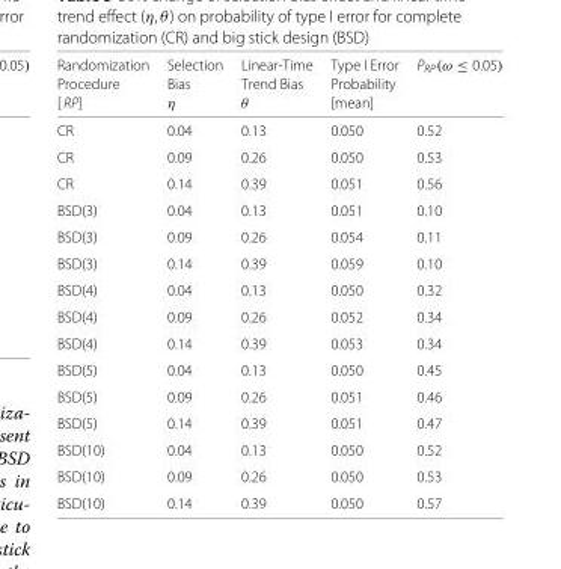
<table><thead><tr><td rowspan="3">Randomization Procedure [ RP]</td><td rowspan="3">Selection Bias η</td><td rowspan="3">Linear-Time Trend Bias θ</td><td rowspan="3">Type I Error Probability [mean]</td><td rowspan="3">P<sub>RP</sub>(ω ≤ 0.05)</td></tr><tr></tr><tr></tr></thead><tbody><tr><td>CR</td><td>0.04</td><td>0.13</td><td>0.050</td><td>0.52</td></tr><tr><td>CR</td><td>0.09</td><td>0.26</td><td>0.050</td><td>0.53</td></tr><tr><td>CR</td><td>0.14</td><td>0.39</td><td>0.051</td><td>0.56</td></tr><tr><td>BSD(3)</td><td>0.04</td><td>0.13</td><td>0.051</td><td>0.10</td></tr><tr><td>BSD(3)</td><td>0.09</td><td>0.26</td><td>0.054</td><td>0.11</td></tr><tr><td>BSD(3)</td><td>0.14</td><td>0.39</td><td>0.059</td><td>0.10</td></tr><tr><td>BSD(4)</td><td>0.04</td><td>0.13</td><td>0.050</td><td>0.32</td></tr><tr><td>BSD(4)</td><td>0.09</td><td>0.26</td><td>0.052</td><td>0.34</td></tr><tr><td>BSD(4)</td><td>0.14</td><td>0.39</td><td>0.053</td><td>0.34</td></tr><tr><td>BSD(5)</td><td>0.04</td><td>0.13</td><td>0.050</td><td>0.45</td></tr><tr><td>BSD(5)</td><td>0.09</td><td>0.26</td><td>0.051</td><td>0.46</td></tr><tr><td>BSD(5)</td><td>0.14</td><td>0.39</td><td>0.051</td><td>0.47</td></tr><tr><td>BSD(10)</td><td>0.04</td><td>0.13</td><td>0.050</td><td>0.52</td></tr><tr><td>BSD(10)</td><td>0.09</td><td>0.26</td><td>0.050</td><td>0.53</td></tr><tr><td>BSD(10)</td><td>0.14</td><td>0.39</td><td>0.050</td><td>0.57</td></tr></tbody></table>